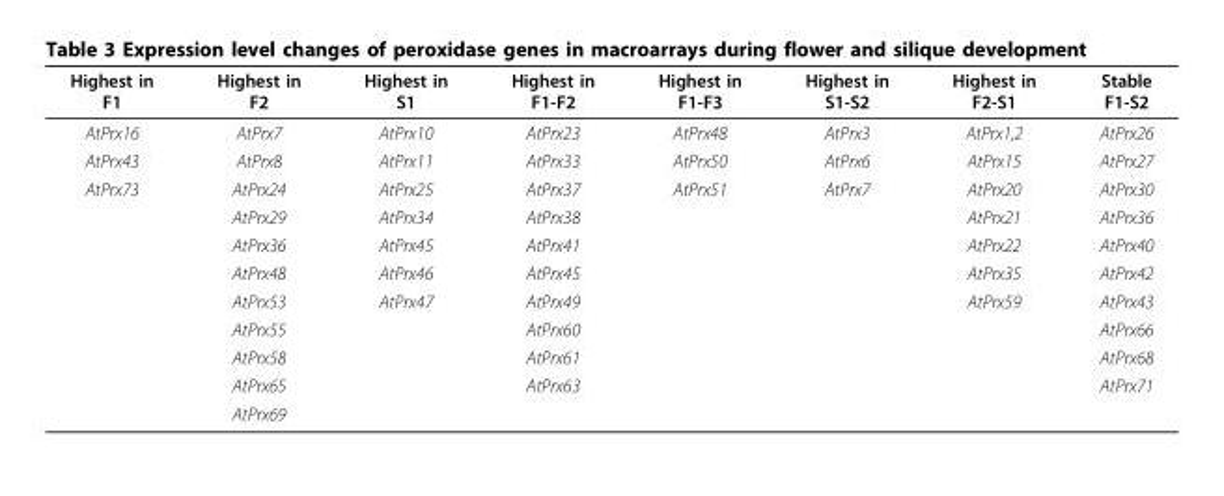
<table><thead><tr><td>Highest in F1</td><td>Highest in F2</td><td>Highest in S1</td><td>Highest in F1-F2</td><td>Highest in F1-F3</td><td>Highest in S1-S2</td><td>Highest in F2-S1</td><td>Stable F1-S2</td></tr></thead><tbody><tr><td>AtPrx16</td><td>AtPrx7</td><td>AtPrx10</td><td>AtPrx23</td><td>AtPrx48</td><td>AtPrx3</td><td>AtPrx1,2</td><td>AtPrx26</td></tr><tr><td>AtPrx43</td><td>AtPrx8</td><td>AtPrx11</td><td>AtPrx33</td><td>AtPrx50</td><td>AtPrx6</td><td>AtPrx15</td><td>AtPrx27</td></tr><tr><td rowspan="9">AtPrx73</td><td>AtPrx24</td><td>AtPrx25</td><td>AtPrx37</td><td>AtPrx51</td><td>AtPrx7</td><td>AtPrx20</td><td>AtPrx30</td></tr><tr><td>AtPrx29</td><td>AtPrx34</td><td>AtPrx38</td><td></td><td></td><td>AtPrx21</td><td>AtPrx36</td></tr><tr><td>AtPrx36</td><td>AtPrx45</td><td>AtPrx41</td><td></td><td></td><td>AtPrx22</td><td>AtPrx40</td></tr><tr><td>AtPrx48</td><td>AtPrx46</td><td>AtPrx45</td><td></td><td></td><td>AtPrx35</td><td>AtPrx42</td></tr><tr><td>AtPrx53</td><td>AtPrx47</td><td>AtPrx49</td><td></td><td></td><td>AtPrx59</td><td>AtPrx43</td></tr><tr><td>AtPrx55</td><td></td><td>AtPrx60</td><td></td><td></td><td></td><td>AtPrx66</td></tr><tr><td>AtPrx58</td><td></td><td>AtPrx61</td><td></td><td></td><td></td><td>AtPrx68</td></tr><tr><td>AtPrx65</td><td></td><td>AtPrx63</td><td></td><td></td><td></td><td>AtPrx71</td></tr><tr><td>AtPrx69</td><td></td><td></td><td></td><td></td><td></td><td></td></tr></tbody></table>